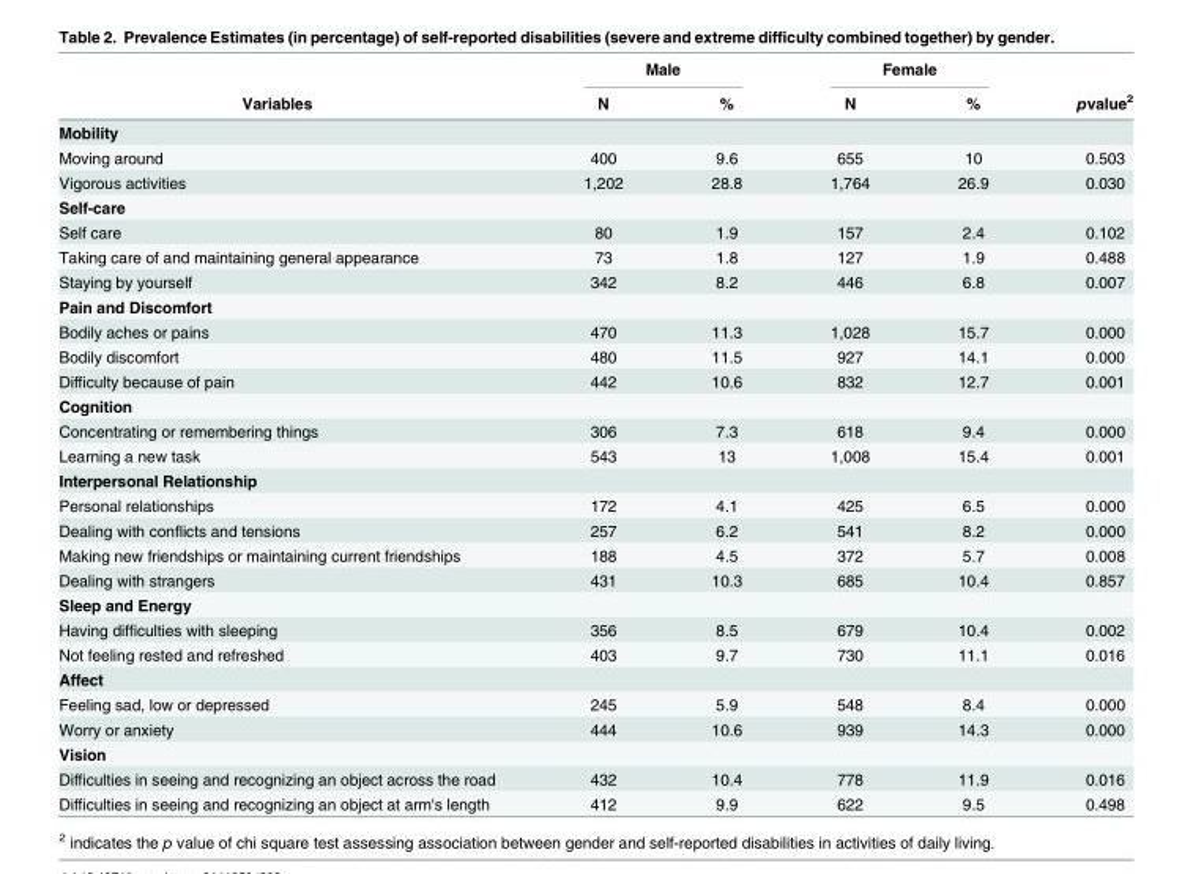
<table><thead><tr><td rowspan="2">Variables</td><td colspan="2">Male</td><td colspan="2">Female</td><td rowspan="2">pvalue<sup>2</sup></td></tr><tr><td>N</td><td>%</td><td>N</td><td>%</td></tr></thead><tbody><tr><td colspan="6">Mobility</td></tr><tr><td>Moving around</td><td>400</td><td>9.6</td><td>655</td><td>10</td><td>0.503</td></tr><tr><td>Vigorous activities</td><td>1,202</td><td>28.8</td><td>1,764</td><td>26.9</td><td>0.030</td></tr><tr><td colspan="6">Self-care</td></tr><tr><td>Self care</td><td>80</td><td>1.9</td><td>157</td><td>2.4</td><td>0.102</td></tr><tr><td>Taking care of and maintaining general appearance</td><td>73</td><td>1.8</td><td>127</td><td>1.9</td><td>0.488</td></tr><tr><td>Staying by yourself</td><td>342</td><td>8.2</td><td>446</td><td>6.8</td><td>0.007</td></tr><tr><td colspan="6">Pain and Discomfort</td></tr><tr><td>Bodily aches or pains</td><td>470</td><td>11.3</td><td>1,028</td><td>15.7</td><td>0.000</td></tr><tr><td>Bodily discomfort</td><td>480</td><td>11.5</td><td>927</td><td>14.1</td><td>0.000</td></tr><tr><td>Difficulty because of pain</td><td>442</td><td>10.6</td><td>832</td><td>12.7</td><td>0.001</td></tr><tr><td colspan="6">Cognition</td></tr><tr><td>Concentrating or remembering things</td><td>306</td><td>7.3</td><td>618</td><td>9.4</td><td>0.000</td></tr><tr><td>Learning a new task</td><td>543</td><td>13</td><td>1,008</td><td>15.4</td><td>0.001</td></tr><tr><td colspan="6">Interpersonal Relationship</td></tr><tr><td>Personal relationships</td><td>172</td><td>4.1</td><td>425</td><td>6.5</td><td>0.000</td></tr><tr><td>Dealing with conflicts and tensions</td><td>257</td><td>6.2</td><td>541</td><td>8.2</td><td>0.000</td></tr><tr><td>Making new friendships or maintaining current friendships</td><td>188</td><td>4.5</td><td>372</td><td>5.7</td><td>0.008</td></tr><tr><td>Dealing with strangers</td><td>431</td><td>10.3</td><td>685</td><td>10.4</td><td>0.857</td></tr><tr><td colspan="6">Sleep and Energy</td></tr><tr><td>Having difficulties with sleeping</td><td>356</td><td>8.5</td><td>679</td><td>10.4</td><td>0.002</td></tr><tr><td>Not feeling rested and refreshed</td><td>403</td><td>9.7</td><td>730</td><td>11.1</td><td>0.016</td></tr><tr><td colspan="6">Affect</td></tr><tr><td>Feeling sad, low or depressed</td><td>245</td><td>5.9</td><td>548</td><td>8.4</td><td>0.000</td></tr><tr><td>Worry or anxiety</td><td>444</td><td>10.6</td><td>939</td><td>14.3</td><td>0.000</td></tr><tr><td colspan="6">Vision</td></tr><tr><td>Difficulties in seeing and recognizing an object across the road</td><td>432</td><td>10.4</td><td>778</td><td>11.9</td><td>0.016</td></tr><tr><td>Difficulties in seeing and recognizing an object at arm&#x27;s length</td><td>412</td><td>9.9</td><td>622</td><td>9.5</td><td>0.498</td></tr></tbody></table>